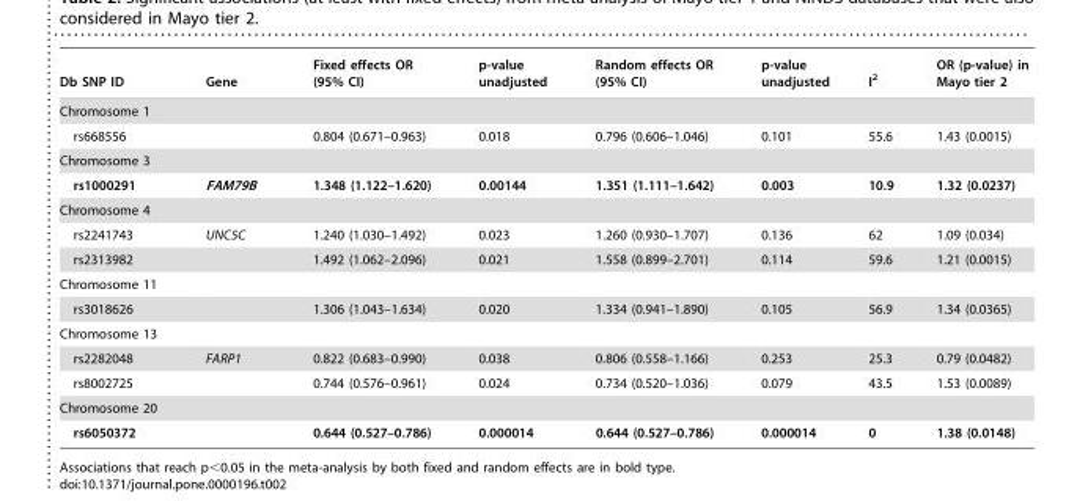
<table><thead><tr><td>Db SNP ID</td><td>Gene</td><td>Fixed effects OR (95% CI)</td><td>p-value unadjusted</td><td>Random effects OR (95% CI)</td><td>p-value unadjusted</td><td>I<sup>2</sup></td><td>OR (p-value) in Mayo tier 2</td></tr></thead><tbody><tr><td colspan="8">Chromosome 1</td></tr><tr><td>rs668556</td><td></td><td>0.804 (0.671–0.963)</td><td>0.018</td><td>0.796 (0.606–1.046)</td><td>0.101</td><td>55.6</td><td>1.43 (0.0015)</td></tr><tr><td colspan="8">Chromosome 3</td></tr><tr><td>rs1000291</td><td>FAM79B</td><td>1.348 (1.122–1.620)</td><td>0.00144</td><td>1.351 (1.111–1.642)</td><td>0.003</td><td>10.9</td><td>1.32 (0.0237)</td></tr><tr><td colspan="8">Chromosome 4</td></tr><tr><td>rs2241743</td><td>UNC5C</td><td>1.240 (1.030–1.492)</td><td>0.023</td><td>1.260 (0.930–1.707)</td><td>0.136</td><td>62</td><td>1.09 (0.034)</td></tr><tr><td>rs2313982</td><td></td><td>1.492 (1.062–2.096)</td><td>0.021</td><td>1.558 (0.899–2.701)</td><td>0.114</td><td>59.6</td><td>1.21 (0.0015)</td></tr><tr><td colspan="8">Chromosome 11</td></tr><tr><td>rs3018626</td><td></td><td>1.306 (1.043–1.634)</td><td>0.020</td><td>1.334 (0.941–1.890)</td><td>0.105</td><td>56.9</td><td>1.34 (0.0365)</td></tr><tr><td colspan="8">Chromosome 13</td></tr><tr><td>rs2282048</td><td>FARP1</td><td>0.822 (0.683–0.990)</td><td>0.038</td><td>0.806 (0.558–1.166)</td><td>0.253</td><td>25.3</td><td>0.79 (0.0482)</td></tr><tr><td>rs8002725</td><td></td><td>0.744 (0.576–0.961)</td><td>0.024</td><td>0.734 (0.520–1.036)</td><td>0.079</td><td>43.5</td><td>1.53 (0.0089)</td></tr><tr><td colspan="8">Chromosome 20</td></tr><tr><td>rs6050372</td><td></td><td>0.644 (0.527–0.786)</td><td>0.000014</td><td>0.644 (0.527–0.786)</td><td>0.000014</td><td>0</td><td>1.38 (0.0148)</td></tr></tbody></table>